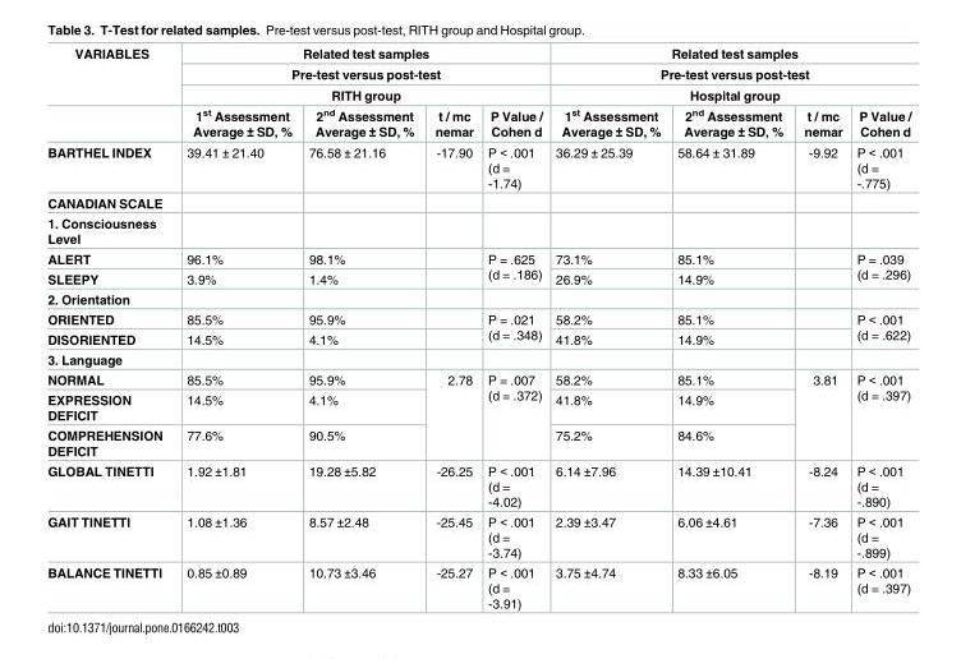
<table><thead><tr><td rowspan="4">VARIABLES</td><td rowspan="3" colspan="4">Related test samples Pre-test versus post-test RITH group</td><td rowspan="3" colspan="4">Related test samples Pre-test versus post-test Hospital group</td></tr><tr></tr><tr></tr><tr><td>1<sup>st</sup> Assessment Average ± SD, %</td><td>2<sup>nd</sup> Assessment Average ± SD, %</td><td>t / mc nemar</td><td>P Value / Cohen d</td><td>1<sup>st</sup> Assessment Average ± SD, %</td><td>2<sup>nd</sup> Assessment Average ± SD, %</td><td>t / mc nemar</td><td>P Value / Cohen d</td></tr></thead><tbody><tr><td>BARTHEL INDEX</td><td>39.41 ± 21.40</td><td>76.58 ± 21.16</td><td>-17.90</td><td>P &lt; .001 (d = -1.74)</td><td>36.29 ± 25.39</td><td>58.64 ± 31.89</td><td>-9.92</td><td>P &lt; .001 (d = -.775)</td></tr><tr><td colspan="9">CANADIAN SCALE</td></tr><tr><td colspan="9">1. Consciousness Level</td></tr><tr><td>ALERT</td><td>96.1%</td><td>98.1%</td><td></td><td rowspan="2">P = .625 (d = .186)</td><td>73.1%</td><td>85.1%</td><td></td><td rowspan="2">P = .039 (d = .296)</td></tr><tr><td>SLEEPY</td><td>3.9%</td><td>1.4%</td><td></td><td>26.9%</td><td>14.9%</td><td></td></tr><tr><td colspan="9">2. Orientation</td></tr><tr><td>ORIENTED</td><td>85.5%</td><td>95.9%</td><td></td><td rowspan="2">P = .021 (d = .348)</td><td>58.2%</td><td>85.1%</td><td></td><td rowspan="2">P &lt; .001 (d = .622)</td></tr><tr><td>DISORIENTED</td><td>14.5%</td><td>4.1%</td><td></td><td>41.8%</td><td>14.9%</td><td></td></tr><tr><td colspan="9">3. Language</td></tr><tr><td>NORMAL</td><td>85.5%</td><td>95.9%</td><td rowspan="3">2.78</td><td rowspan="3">P = .007 (d = .372)</td><td>58.2%</td><td>85.1%</td><td rowspan="3">3.81</td><td rowspan="3">P &lt; .001 (d = .397)</td></tr><tr><td>EXPRESSION DEFICIT</td><td>14.5%</td><td>4.1%</td><td>41.8%</td><td>14.9%</td></tr><tr><td>COMPREHENSION DEFICIT</td><td>77.6%</td><td>90.5%</td><td>75.2%</td><td>84.6%</td></tr><tr><td>GLOBAL TINETTI</td><td>1.92 ±1.81</td><td>19.28 ±5.82</td><td>-26.25</td><td>P &lt; .001 (d = -4.02)</td><td>6.14 ±7.96</td><td>14.39 ±10.41</td><td>-8.24</td><td>P &lt; .001 (d = -.890)</td></tr><tr><td>GAIT TINETTI</td><td>1.08 ±1.36</td><td>8.57 ±2.48</td><td>-25.45</td><td>P &lt; .001 (d = -3.74)</td><td>2.39 ±3.47</td><td>6.06 ±4.61</td><td>-7.36</td><td>P &lt; .001 (d = -.899)</td></tr><tr><td>BALANCE TINETTI</td><td>0.85 ±0.89</td><td>10.73 ±3.46</td><td>-25.27</td><td>P &lt; .001 (d = -3.91)</td><td>3.75 ±4.74</td><td>8.33 ±6.05</td><td>-8.19</td><td>P &lt; .001 (d = .397)</td></tr></tbody></table>